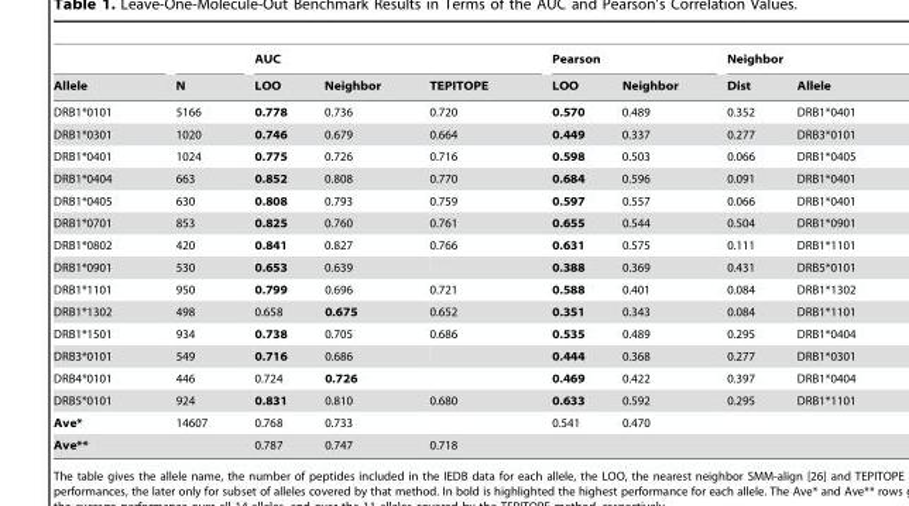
<table><thead><tr><td rowspan="2">Allele</td><td rowspan="2">N</td><td colspan="3">AUC</td><td colspan="2">Pearson</td><td colspan="2">Neighbor</td></tr><tr><td>LOO</td><td>Neighbor</td><td>TEPITOPE</td><td>LOO</td><td>Neighbor</td><td>Dist</td><td>Allele</td></tr></thead><tbody><tr><td>DRB1*0101</td><td>5166</td><td>0.778</td><td>0.736</td><td>0.720</td><td>0.570</td><td>0.489</td><td>0.352</td><td>DRB1*0401</td></tr><tr><td>DRB1*0301</td><td>1020</td><td>0.746</td><td>0.679</td><td>0.664</td><td>0.449</td><td>0.337</td><td>0.277</td><td>DRB3*0101</td></tr><tr><td>DRB1*0401</td><td>1024</td><td>0.775</td><td>0.726</td><td>0.716</td><td>0.598</td><td>0.503</td><td>0.066</td><td>DRB1*0405</td></tr><tr><td>DRB1*0404</td><td>663</td><td>0.852</td><td>0.808</td><td>0.770</td><td>0.684</td><td>0.596</td><td>0.091</td><td>DRB1*0401</td></tr><tr><td>DRB1*0405</td><td>630</td><td>0.808</td><td>0.793</td><td>0.759</td><td>0.597</td><td>0.557</td><td>0.066</td><td>DRB1*0401</td></tr><tr><td>DRB1*0701</td><td>853</td><td>0.825</td><td>0.760</td><td>0.761</td><td>0.655</td><td>0.544</td><td>0.504</td><td>DRB1*0901</td></tr><tr><td>DRB1*0802</td><td>420</td><td>0.841</td><td>0.827</td><td>0.766</td><td>0.631</td><td>0.575</td><td>0.111</td><td>DRB1*1101</td></tr><tr><td>DRB1*0901</td><td>530</td><td>0.653</td><td>0.639</td><td></td><td>0.388</td><td>0.369</td><td>0.431</td><td>DRB5*0101</td></tr><tr><td>DRB1*1101</td><td>950</td><td>0.799</td><td>0.696</td><td>0.721</td><td>0.588</td><td>0.401</td><td>0.084</td><td>DRB1*1302</td></tr><tr><td>DRB1*1302</td><td>498</td><td>0.658</td><td>0.675</td><td>0.652</td><td>0.351</td><td>0.343</td><td>0.084</td><td>DRB1*1101</td></tr><tr><td>DRB1*1501</td><td>934</td><td>0.738</td><td>0.705</td><td>0.686</td><td>0.535</td><td>0.489</td><td>0.295</td><td>DRB1*0404</td></tr><tr><td>DRB3*0101</td><td>549</td><td>0.716</td><td>0.686</td><td></td><td>0.444</td><td>0.368</td><td>0.277</td><td>DRB1*0301</td></tr><tr><td>DRB4*0101</td><td>446</td><td>0.724</td><td>0.726</td><td></td><td>0.469</td><td>0.422</td><td>0.397</td><td>DRB1*0404</td></tr><tr><td>DRB5*0101</td><td>924</td><td>0.831</td><td>0.810</td><td>0.680</td><td>0.633</td><td>0.592</td><td>0.295</td><td>DRB1*1101</td></tr><tr><td>Ave*</td><td>14607</td><td>0.768</td><td>0.733</td><td></td><td>0.541</td><td>0.470</td><td></td><td></td></tr><tr><td>Ave**</td><td></td><td>0.787</td><td>0.747</td><td>0.718</td><td></td><td></td><td></td><td></td></tr></tbody></table>